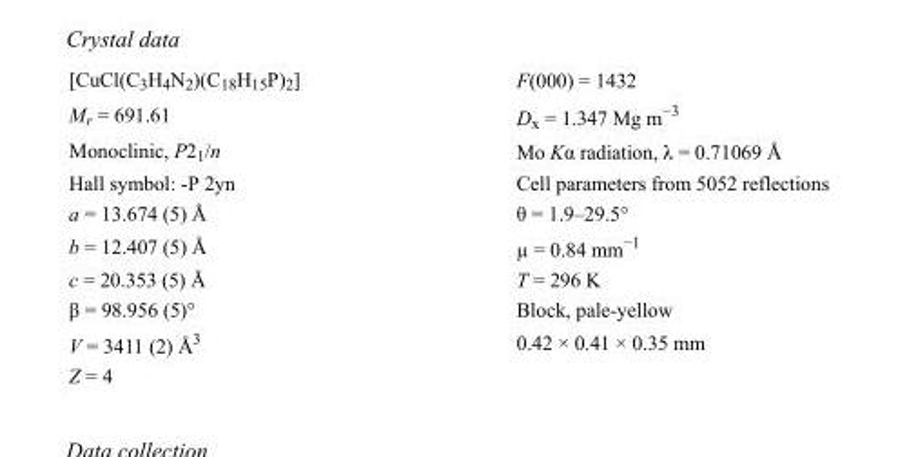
<table><tbody><tr><td>[CuCl(C<sub>3</sub>H<sub>4</sub>N<sub>2</sub>)(C<sub>18</sub>H<sub>15</sub>P)<sub>2</sub>]</td><td>F(000) = 1432</td></tr><tr><td>M<sub>r</sub> = 691.61</td><td>D<sub>x</sub> = 1.347 Mg m<sup>−3</sup></td></tr><tr><td>Monoclinic, P2<sub>1</sub>/n</td><td>Mo Kα radiation, λ = 0.71069 Å</td></tr><tr><td>Hall symbol: -P 2yn</td><td>Cell parameters from 5052 reflections</td></tr><tr><td>a = 13.674 (5) Å</td><td>θ = 1.9–29.5°</td></tr><tr><td>b = 12.407 (5) Å</td><td>µ = 0.84 mm<sup>−1</sup></td></tr><tr><td>c = 20.353 (5) Å</td><td>T = 296 K</td></tr><tr><td>β = 98.956 (5)°</td><td>Block, pale-yellow</td></tr><tr><td>V = 3411 (2) Å<sup>3</sup></td><td>0.42 × 0.41 × 0.35 mm</td></tr><tr><td>Z = 4</td><td></td></tr></tbody></table>